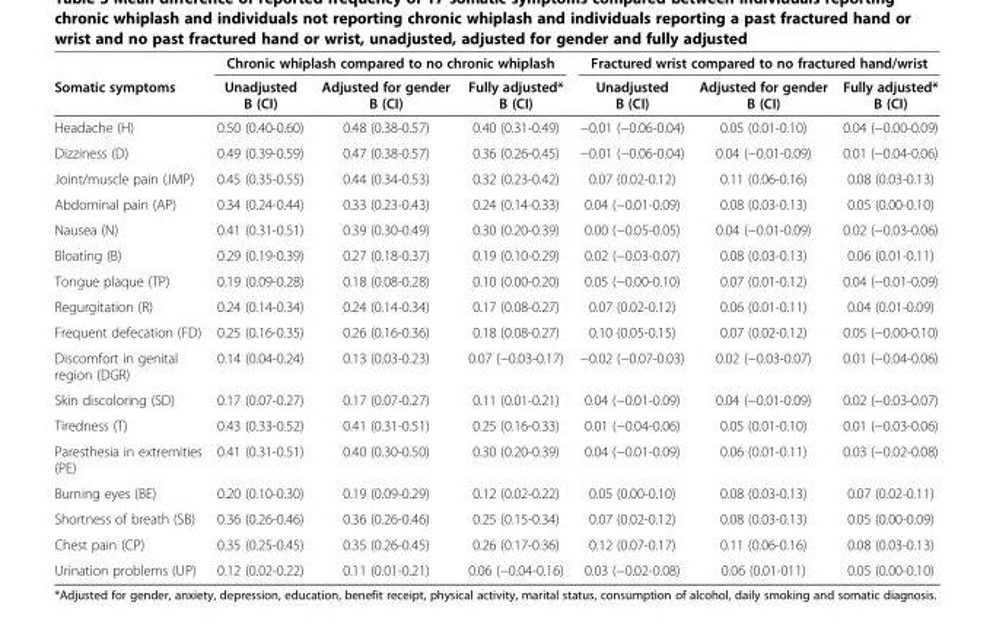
<table><thead><tr><td rowspan="2">Somatic symptoms</td><td colspan="3">Chronic whiplash compared to no chronic whiplash</td><td colspan="3">Fractured wrist compared to no fractured hand/wrist</td></tr><tr><td>Unadjusted B (CI)</td><td>Adjusted for gender B (CI)</td><td>Fully adjusted* B (CI)</td><td>Unadjusted B (CI)</td><td>Adjusted for gender B (CI)</td><td>Fully adjusted* B (CI)</td></tr></thead><tbody><tr><td>Headache (H)</td><td>0.50 (0.40-0.60)</td><td>0.48 (0.38-0.57)</td><td>0.40 (0.31-0.49)</td><td>−0.01 (−0.06-0.04)</td><td>0.05 (0.01-0.10)</td><td>0.04 (−0.00-0.09)</td></tr><tr><td>Dizziness (D)</td><td>0.49 (0.39-0.59)</td><td>0.47 (0.38-0.57)</td><td>0.36 (0.26-0.45)</td><td>−0.01 (−0.06-0.04)</td><td>0.04 (−0.01-0.09)</td><td>0.01 (−0.04-0.06)</td></tr><tr><td>Joint/muscle pain (JMP)</td><td>0.45 (0.35-0.55)</td><td>0.44 (0.34-0.53)</td><td>0.32 (0.23-0.42)</td><td>0.07 (0.02-0.12)</td><td>0.11 (0.06-0.16)</td><td>0.08 (0.03-0.13)</td></tr><tr><td>Abdominal pain (AP)</td><td>0.34 (0.24-0.44)</td><td>0.33 (0.23-0.43)</td><td>0.24 (0.14-0.33)</td><td>0.04 (−0.01-0.09)</td><td>0.08 (0.03-0.13)</td><td>0.05 (0.00-0.10)</td></tr><tr><td>Nausea (N)</td><td>0.41 (0.31-0.51)</td><td>0.39 (0.30-0.49)</td><td>0.30 (0.20-0.39)</td><td>0.00 (−0.05-0.05)</td><td>0.04 (−0.01-0.09)</td><td>0.02 (−0.03-0.06)</td></tr><tr><td>Bloating (B)</td><td>0.29 (0.19-0.39)</td><td>0.27 (0.18-0.37)</td><td>0.19 (0.10-0.29)</td><td>0.02 (−0.03-0.07)</td><td>0.08 (0.03-0.13)</td><td>0.06 (0.01-0.11)</td></tr><tr><td>Tongue plaque (TP)</td><td>0.19 (0.09-0.28)</td><td>0.18 (0.08-0.28)</td><td>0.10 (0.00-0.20)</td><td>0.05 (−0.00-0.10)</td><td>0.07 (0.01-0.12)</td><td>0.04 (−0.01-0.09)</td></tr><tr><td>Regurgitation (R)</td><td>0.24 (0.14-0.34)</td><td>0.24 (0.14-0.34)</td><td>0.17 (0.08-0.27)</td><td>0.07 (0.02-0.12)</td><td>0.06 (0.01-0.11)</td><td>0.04 (0.01-0.09)</td></tr><tr><td>Frequent defecation (FD)</td><td>0.25 (0.16-0.35)</td><td>0.26 (0.16-0.36)</td><td>0.18 (0.08-0.27)</td><td>0.10 (0.05-0.15)</td><td>0.07 (0.02-0.12)</td><td>0.05 (−0.00-0.10)</td></tr><tr><td>Discomfort in genital region (DGR)</td><td>0.14 (0.04-0.24)</td><td>0.13 (0.03-0.23)</td><td>0.07 (−0.03-0.17)</td><td>−0.02 (−0.07-0.03)</td><td>0.02 (−0.03-0.07)</td><td>0.01 (−0.04-0.06)</td></tr><tr><td>Skin discoloring (SD)</td><td>0.17 (0.07-0.27)</td><td>0.17 (0.07-0.27)</td><td>0.11 (0.01-0.21)</td><td>0.04 (−0.01-0.09)</td><td>0.04 (−0.01-0.09)</td><td>0.02 (−0.03-0.07)</td></tr><tr><td>Tiredness (T)</td><td>0.43 (0.33-0.52)</td><td>0.41 (0.31-0.51)</td><td>0.25 (0.16-0.33)</td><td>0.01 (−0.04-0.06)</td><td>0.05 (0.01-0.10)</td><td>0.01 (−0.03-0.06)</td></tr><tr><td>Paresthesia in extremities (PE)</td><td>0.41 (0.31-0.51)</td><td>0.40 (0.30-0.50)</td><td>0.30 (0.20-0.39)</td><td>0.04 (−0.01-0.09)</td><td>0.06 (0.01-0.11)</td><td>0.03 (−0.02-0.08)</td></tr><tr><td>Burning eyes (BE)</td><td>0.20 (0.10-0.30)</td><td>0.19 (0.09-0.29)</td><td>0.12 (0.02-0.22)</td><td>0.05 (0.00-0.10)</td><td>0.08 (0.03-0.13)</td><td>0.07 (0.02-0.11)</td></tr><tr><td>Shortness of breath (SB)</td><td>0.36 (0.26-0.46)</td><td>0.36 (0.26-0.46)</td><td>0.25 (0.15-0.34)</td><td>0.07 (0.02-0.12)</td><td>0.08 (0.03-0.13)</td><td>0.05 (0.00-0.09)</td></tr><tr><td>Chest pain (CP)</td><td>0.35 (0.25-0.45)</td><td>0.35 (0.26-0.45)</td><td>0.26 (0.17-0.36)</td><td>0.12 (0.07-0.17)</td><td>0.11 (0.06-0.16)</td><td>0.08 (0.03-0.13)</td></tr><tr><td>Urination problems (UP)</td><td>0.12 (0.02-0.22)</td><td>0.11 (0.01-0.21)</td><td>0.06 (−0.04-0.16)</td><td>0.03 (−0.02-0.08)</td><td>0.06 (0.01-011)</td><td>0.05 (0.00-0.10)</td></tr></tbody></table>